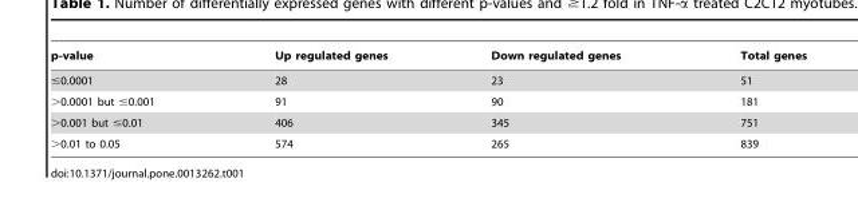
<table><thead><tr><td>p-value</td><td>Up regulated genes</td><td>Down regulated genes</td><td>Total genes</td></tr></thead><tbody><tr><td>≤0.0001</td><td>28</td><td>23</td><td>51</td></tr><tr><td>&gt;0.0001 but ≤0.001</td><td>91</td><td>90</td><td>181</td></tr><tr><td>&gt;0.001 but ≤0.01</td><td>406</td><td>345</td><td>751</td></tr><tr><td>&gt;0.01 to 0.05</td><td>574</td><td>265</td><td>839</td></tr></tbody></table>